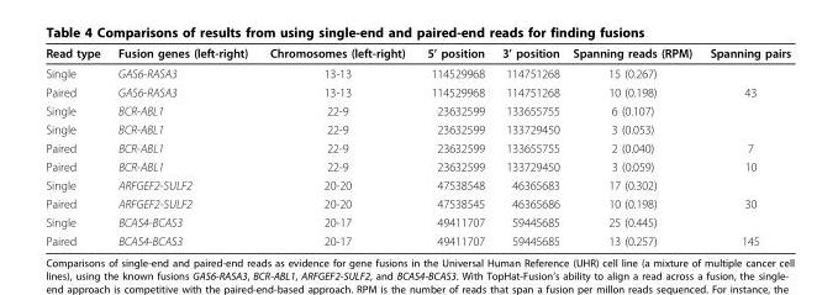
<table><thead><tr><td>Read type</td><td>Fusion genes (left-right)</td><td>Chromosomes (left-right)</td><td>5’ position</td><td>3’ position</td><td>Spanning reads (RPM)</td><td>Spanning pairs</td></tr></thead><tbody><tr><td>Single</td><td>GAS6-RASA3</td><td>13-13</td><td>114529968</td><td>114751268</td><td>15 (0.267)</td><td></td></tr><tr><td>Paired</td><td>GAS6-RASA3</td><td>13-13</td><td>114529968</td><td>114751268</td><td>10 (0.198)</td><td>43</td></tr><tr><td>Single</td><td>BCR-ABL1</td><td>22-9</td><td>23632599</td><td>133655755</td><td>6 (0.107)</td><td></td></tr><tr><td>Single</td><td>BCR-ABL1</td><td>22-9</td><td>23632599</td><td>133729450</td><td>3 (0.053)</td><td></td></tr><tr><td>Paired</td><td>BCR-ABL1</td><td>22-9</td><td>23632599</td><td>133655755</td><td>2 (0.040)</td><td>7</td></tr><tr><td>Paired</td><td>BCR-ABL1</td><td>22-9</td><td>23632599</td><td>133729450</td><td>3 (0.059)</td><td>10</td></tr><tr><td>Single</td><td>ARFGEF2-SULF2</td><td>20-20</td><td>47538548</td><td>46365683</td><td>17 (0.302)</td><td></td></tr><tr><td>Paired</td><td>ARFGEF2-SULF2</td><td>20-20</td><td>47538545</td><td>46365686</td><td>10 (0.198)</td><td>30</td></tr><tr><td>Single</td><td>BCAS4-BCAS3</td><td>20-17</td><td>49411707</td><td>59445685</td><td>25 (0.445)</td><td></td></tr><tr><td>Paired</td><td>BCAS4-BCAS3</td><td>20-17</td><td>49411707</td><td>59445685</td><td>13 (0.257)</td><td>145</td></tr></tbody></table>